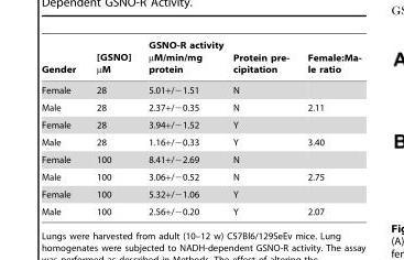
<table><thead><tr><td>Gender</td><td>[GSNO] µM</td><td>GSNO-R activity µM/min/mg protein</td><td>Protein pre- cipitation</td><td>Female:Ma- le ratio</td></tr></thead><tbody><tr><td>Female</td><td>28</td><td>5.01+/−1.51</td><td>N</td><td></td></tr><tr><td>Male</td><td>28</td><td>2.37+/−0.35</td><td>N</td><td>2.11</td></tr><tr><td>Female</td><td>28</td><td>3.94+/−1.52</td><td>Y</td><td></td></tr><tr><td>Male</td><td>28</td><td>1.16+/−0.33</td><td>Y</td><td>3.40</td></tr><tr><td>Female</td><td>100</td><td>8.41+/−2.69</td><td>N</td><td></td></tr><tr><td>Male</td><td>100</td><td>3.06+/−0.52</td><td>N</td><td>2.75</td></tr><tr><td>Female</td><td>100</td><td>5.32+/−1.06</td><td>Y</td><td></td></tr><tr><td>Male</td><td>100</td><td>2.56+/−0.20</td><td>Y</td><td>2.07</td></tr></tbody></table>